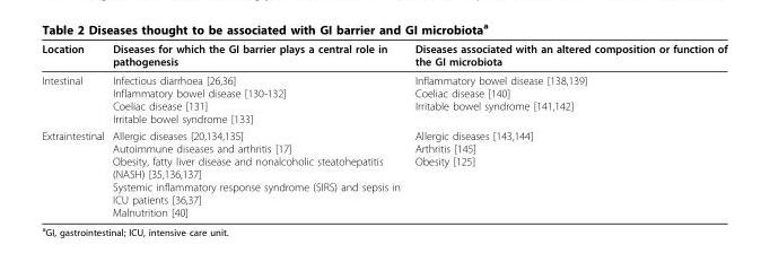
<table><thead><tr><td>Location</td><td>Diseases for which the GI barrier plays a central role in pathogenesis</td><td>Diseases associated with an altered composition or function of the GI microbiota</td></tr></thead><tbody><tr><td>Intestinal</td><td>Infectious diarrhoea [26,36] Inflammatory bowel disease [130-132] Coeliac disease [131] Irritable bowel syndrome [133]</td><td>Inflammatory bowel disease [138,139] Coeliac disease [140] Irritable bowel syndrome [141,142]</td></tr><tr><td>Extraintestinal</td><td>Allergic diseases [20,134,135] Autoimmune diseases and arthritis [17] Obesity, fatty liver disease and nonalcoholic steatohepatitis (NASH) [35,136,137] Systemic inflammatory response syndrome (SIRS) and sepsis in ICU patients [36,37] Malnutrition [40]</td><td>Allergic diseases [143,144] Arthritis [145] Obesity [125]</td></tr></tbody></table>